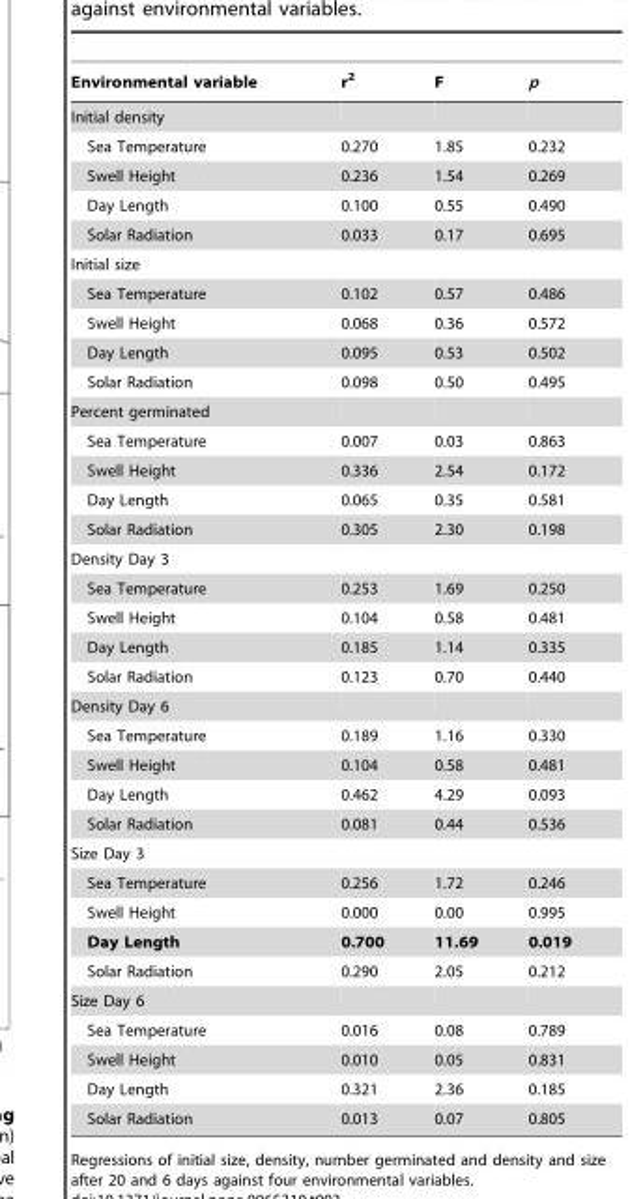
<table><thead><tr><td>Environmental variable</td><td>r<sup>2</sup></td><td>F</td><td>p</td></tr></thead><tbody><tr><td colspan="4">Initial density</td></tr><tr><td>Sea Temperature</td><td>0.270</td><td>1.85</td><td>0.232</td></tr><tr><td>Swell Height</td><td>0.236</td><td>1.54</td><td>0.269</td></tr><tr><td>Day Length</td><td>0.100</td><td>0.55</td><td>0.490</td></tr><tr><td>Solar Radiation</td><td>0.033</td><td>0.17</td><td>0.695</td></tr><tr><td colspan="4">Initial size</td></tr><tr><td>Sea Temperature</td><td>0.102</td><td>0.57</td><td>0.486</td></tr><tr><td>Swell Height</td><td>0.068</td><td>0.36</td><td>0.572</td></tr><tr><td>Day Length</td><td>0.095</td><td>0.53</td><td>0.502</td></tr><tr><td>Solar Radiation</td><td>0.098</td><td>0.50</td><td>0.495</td></tr><tr><td colspan="4">Percent germinated</td></tr><tr><td>Sea Temperature</td><td>0.007</td><td>0.03</td><td>0.863</td></tr><tr><td>Swell Height</td><td>0.336</td><td>2.54</td><td>0.172</td></tr><tr><td>Day Length</td><td>0.065</td><td>0.35</td><td>0.581</td></tr><tr><td>Solar Radiation</td><td>0.305</td><td>2.30</td><td>0.198</td></tr><tr><td colspan="4">Density Day 3</td></tr><tr><td>Sea Temperature</td><td>0.253</td><td>1.69</td><td>0.250</td></tr><tr><td>Swell Height</td><td>0.104</td><td>0.58</td><td>0.481</td></tr><tr><td>Day Length</td><td>0.185</td><td>1.14</td><td>0.335</td></tr><tr><td>Solar Radiation</td><td>0.123</td><td>0.70</td><td>0.440</td></tr><tr><td colspan="4">Density Day 6</td></tr><tr><td>Sea Temperature</td><td>0.189</td><td>1.16</td><td>0.330</td></tr><tr><td>Swell Height</td><td>0.104</td><td>0.58</td><td>0.481</td></tr><tr><td>Day Length</td><td>0.462</td><td>4.29</td><td>0.093</td></tr><tr><td>Solar Radiation</td><td>0.081</td><td>0.44</td><td>0.536</td></tr><tr><td colspan="4">Size Day 3</td></tr><tr><td>Sea Temperature</td><td>0.256</td><td>1.72</td><td>0.246</td></tr><tr><td>Swell Height</td><td>0.000</td><td>0.00</td><td>0.995</td></tr><tr><td>Day Length</td><td>0.700</td><td>11.69</td><td>0.019</td></tr><tr><td>Solar Radiation</td><td>0.290</td><td>2.05</td><td>0.212</td></tr><tr><td colspan="4">Size Day 6</td></tr><tr><td>Sea Temperature</td><td>0.016</td><td>0.08</td><td>0.789</td></tr><tr><td>Swell Height</td><td>0.010</td><td>0.05</td><td>0.831</td></tr><tr><td>Day Length</td><td>0.321</td><td>2.36</td><td>0.185</td></tr><tr><td>Solar Radiation</td><td>0.013</td><td>0.07</td><td>0.805</td></tr></tbody></table>